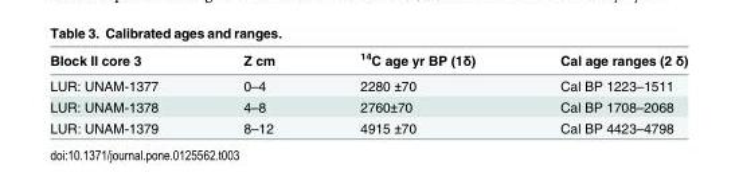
<table><thead><tr><td>Block II core 3</td><td>Z cm</td><td><sup>14</sup>C age yr BP (1δ)</td><td>Cal age ranges (2 δ)</td></tr></thead><tbody><tr><td>LUR: UNAM-1377</td><td>0–4</td><td>2280 ±70</td><td>Cal BP 1223–1511</td></tr><tr><td>LUR: UNAM-1378</td><td>4–8</td><td>2760±70</td><td>Cal BP 1708–2068</td></tr><tr><td>LUR: UNAM-1379</td><td>8–12</td><td>4915 ±70</td><td>Cal BP 4423–4798</td></tr></tbody></table>